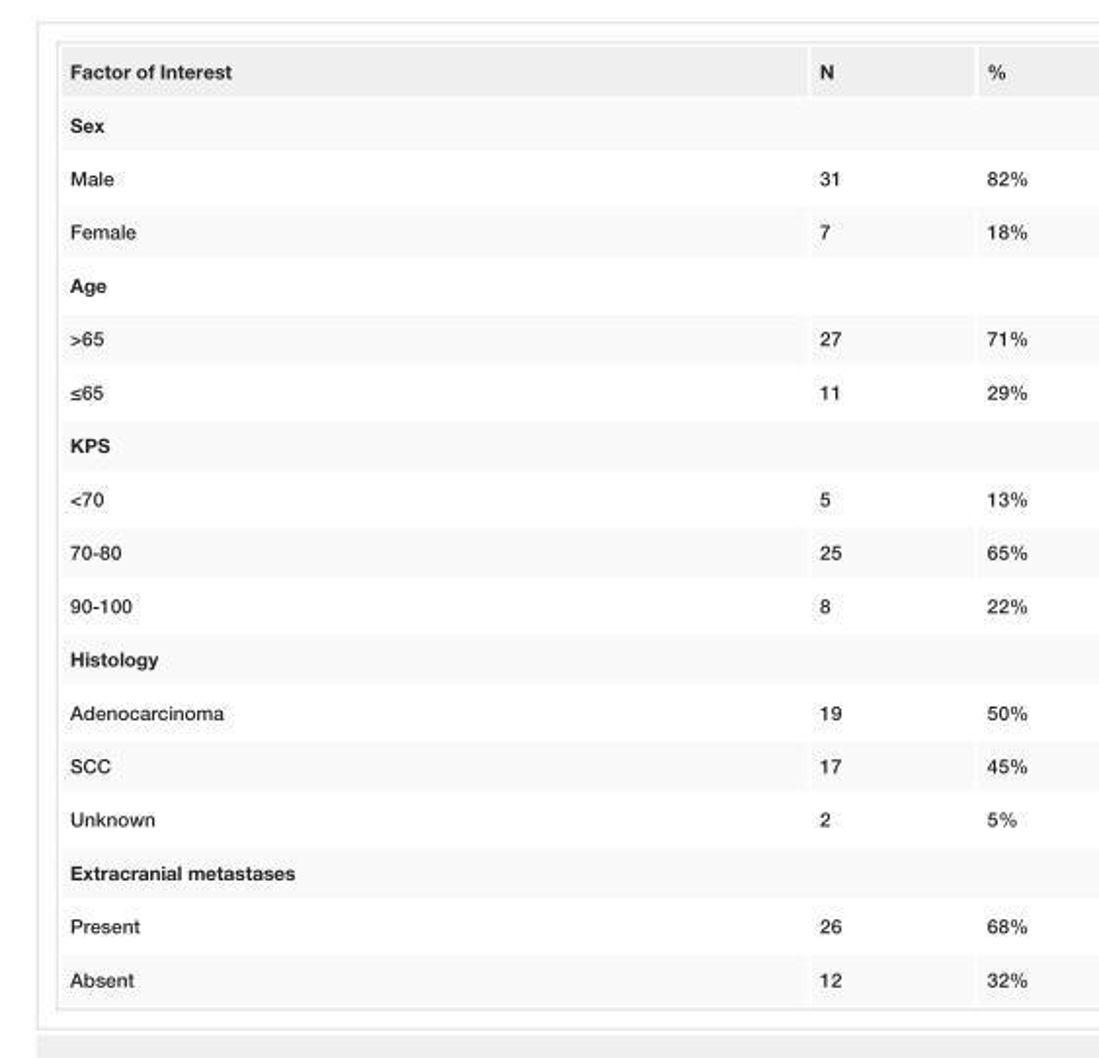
<table><tbody><tr><td>Factor of Interest</td><td>N</td><td>%</td></tr><tr><td colspan="3">Sex</td></tr><tr><td>Male</td><td>31</td><td>82%</td></tr><tr><td>Female</td><td>7</td><td>18%</td></tr><tr><td colspan="3">Age</td></tr><tr><td>&gt;65</td><td>27</td><td>71%</td></tr><tr><td>≤65</td><td>11</td><td>29%</td></tr><tr><td colspan="3">KPS</td></tr><tr><td>&lt;70</td><td>5</td><td>13%</td></tr><tr><td>70-80</td><td>25</td><td>65%</td></tr><tr><td>90-100</td><td>8</td><td>22%</td></tr><tr><td colspan="3">Histology</td></tr><tr><td>Adenocarcinoma</td><td>19</td><td>50%</td></tr><tr><td>SCC</td><td>17</td><td>45%</td></tr><tr><td>Unknown</td><td>2</td><td>5%</td></tr><tr><td colspan="3">Extracranial metastases</td></tr><tr><td>Present</td><td>26</td><td>68%</td></tr><tr><td>Absent</td><td>12</td><td>32%</td></tr></tbody></table>